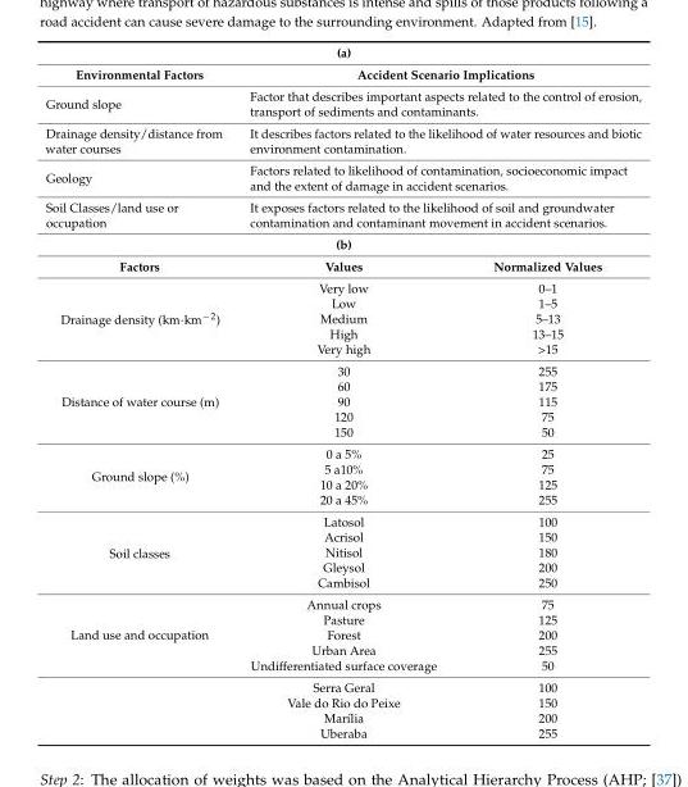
<table><tbody><tr><td colspan="3">(a)</td></tr><tr><td>Environmental Factors</td><td colspan="2">Accident Scenario Implications</td></tr><tr><td>Ground slope</td><td colspan="2">Factor that describes important aspects related to the control of erosion, transport of sediments and contaminants.</td></tr><tr><td>Drainage density/distance from water courses</td><td colspan="2">It describes factors related to the likelihood of water resources and biotic environment contamination.</td></tr><tr><td>Geology</td><td colspan="2">Factors related to likelihood of contamination, socioeconomic impact and the extent of damage in accident scenarios.</td></tr><tr><td>Soil Classes/land use or occupation</td><td colspan="2">It exposes factors related to the likelihood of soil and groundwater contamination and contaminant movement in accident scenarios.</td></tr><tr><td colspan="3">(b)</td></tr><tr><td>Factors</td><td>Values</td><td>Normalized Values</td></tr><tr><td rowspan="5">Drainage density (km·km<sup>−2</sup>)</td><td>Very low</td><td>0–1</td></tr><tr><td>Low</td><td>1–5</td></tr><tr><td>Medium</td><td>5–13</td></tr><tr><td>High</td><td>13–15</td></tr><tr><td>Very high</td><td>&gt;15</td></tr><tr><td rowspan="5">Distance of water course (m)</td><td>30</td><td>255</td></tr><tr><td>60</td><td>175</td></tr><tr><td>90</td><td>115</td></tr><tr><td>120</td><td>75</td></tr><tr><td>150</td><td>50</td></tr><tr><td rowspan="4">Ground slope (%)</td><td>0 a 5%</td><td>25</td></tr><tr><td>5 a10%</td><td>75</td></tr><tr><td>10 a 20%</td><td>125</td></tr><tr><td>20 a 45%</td><td>255</td></tr><tr><td rowspan="5">Soil classes</td><td>Latosol</td><td>100</td></tr><tr><td>Acrisol</td><td>150</td></tr><tr><td>Nitisol</td><td>180</td></tr><tr><td>Gleysol</td><td>200</td></tr><tr><td>Cambisol</td><td>250</td></tr><tr><td rowspan="9">Land use and occupation</td><td>Annual crops</td><td>75</td></tr><tr><td>Pasture</td><td>125</td></tr><tr><td>Forest</td><td>200</td></tr><tr><td>Urban Area</td><td>255</td></tr><tr><td>Undifferentiated surface coverage</td><td>50</td></tr><tr><td>Serra Geral</td><td>100</td></tr><tr><td>Vale do Rio do Peixe</td><td>150</td></tr><tr><td>Marília</td><td>200</td></tr><tr><td>Uberaba</td><td>255</td></tr></tbody></table>